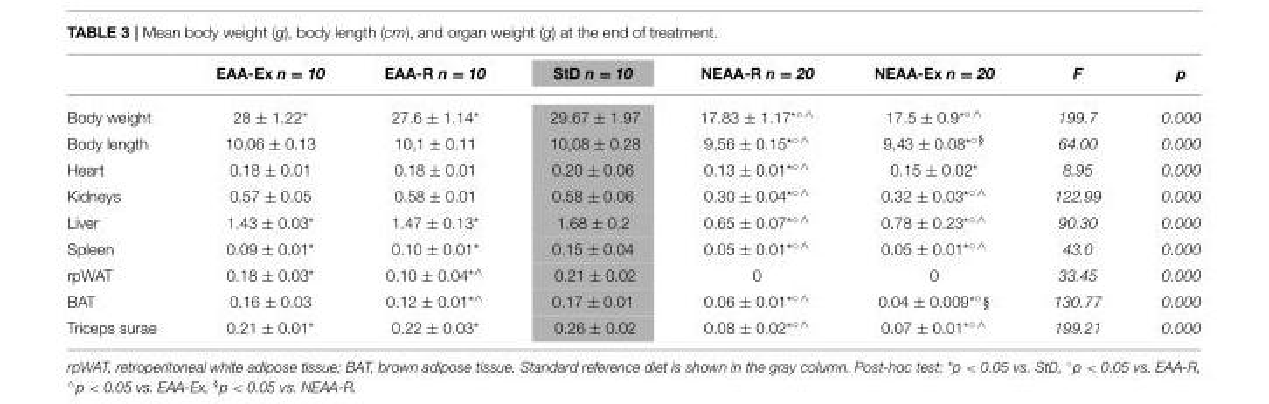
<table><thead><tr><td></td><td>EAA-Ex n = 10</td><td>EAA-R n = 10</td><td>StD n = 10</td><td>NEAA-R n = 20</td><td>NEAA-Ex n = 20</td><td>F</td><td>p</td></tr></thead><tbody><tr><td>Body weight</td><td>28 ± 1.22*</td><td>27.6 ± 1.14*</td><td>29.67 ± 1.97</td><td>17.83 ± 1.17*◦∧</td><td>17.5 ± 0.9*◦∧</td><td>199.7</td><td>0.000</td></tr><tr><td>Body length</td><td>10,06 ± 0.13</td><td>10,1 ± 0.11</td><td>10,08 ± 0.28</td><td>9,56 ± 0.15*◦∧</td><td>9,43 ± 0.08*◦§</td><td>64.00</td><td>0.000</td></tr><tr><td>Heart</td><td>0.18 ± 0.01</td><td>0.18 ± 0.01</td><td>0.20 ± 0.06</td><td>0.13 ± 0.01*◦∧</td><td>0.15 ± 0.02*</td><td>8.95</td><td>0.000</td></tr><tr><td>Kidneys</td><td>0.57 ± 0.05</td><td>0.58 ± 0.01</td><td>0.58 ± 0.06</td><td>0.30 ± 0.04*◦∧</td><td>0.32 ± 0.03*◦∧</td><td>122.99</td><td>0.000</td></tr><tr><td>Liver</td><td>1.43 ± 0.03*</td><td>1.47 ± 0.13*</td><td>1.68 ± 0.2</td><td>0.65 ± 0.07*◦∧</td><td>0.78 ± 0.23*◦∧</td><td>90.30</td><td>0.000</td></tr><tr><td>Spleen</td><td>0.09 ± 0.01*</td><td>0.10 ± 0.01*</td><td>0.15 ± 0.04</td><td>0.05 ± 0.01*◦∧</td><td>0.05 ± 0.01*◦∧</td><td>43.0</td><td>0.000</td></tr><tr><td>rpWAT</td><td>0.18 ± 0.03*</td><td>0.10 ± 0.04<sup>*∧</sup></td><td>0.21 ± 0.02</td><td>0</td><td>0</td><td>33.45</td><td>0.000</td></tr><tr><td>BAT</td><td>0.16 ± 0.03</td><td>0.12 ± 0.01<sup>*∧</sup></td><td>0.17 ± 0.01</td><td>0.06 ± 0.01*◦∧</td><td>0.04 ± 0.009*◦§</td><td>130.77</td><td>0.000</td></tr><tr><td>Triceps surae</td><td>0.21 ± 0.01*</td><td>0.22 ± 0.03*</td><td>0.26 ± 0.02</td><td>0.08 ± 0.02*◦∧</td><td>0.07 ± 0.01*◦∧</td><td>199.21</td><td>0.000</td></tr></tbody></table>